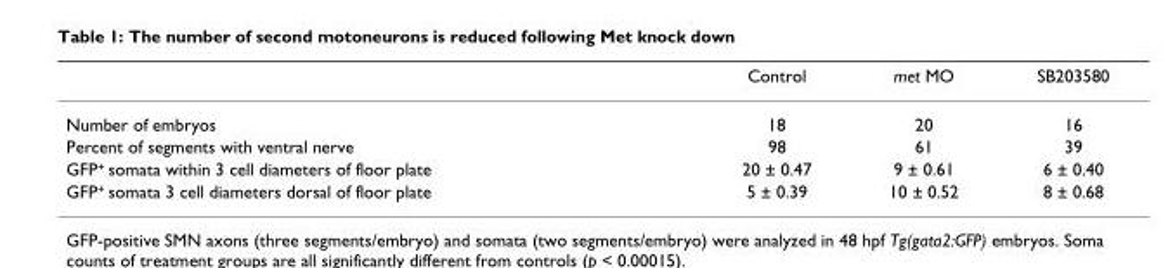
<table><thead><tr><td></td><td>Control</td><td>met MO</td><td>SB203580</td></tr></thead><tbody><tr><td>Number of embryos</td><td>18</td><td>20</td><td>16</td></tr><tr><td>Percent of segments with ventral nerve</td><td>98</td><td>61</td><td>39</td></tr><tr><td>GFP<sup>+</sup> somata within 3 cell diameters of floor plate</td><td>20 ± 0.47</td><td>9 ± 0.61</td><td>6 ± 0.40</td></tr><tr><td>GFP<sup>+</sup> somata 3 cell diameters dorsal of floor plate</td><td>5 ± 0.39</td><td>10 ± 0.52</td><td>8 ± 0.68</td></tr></tbody></table>